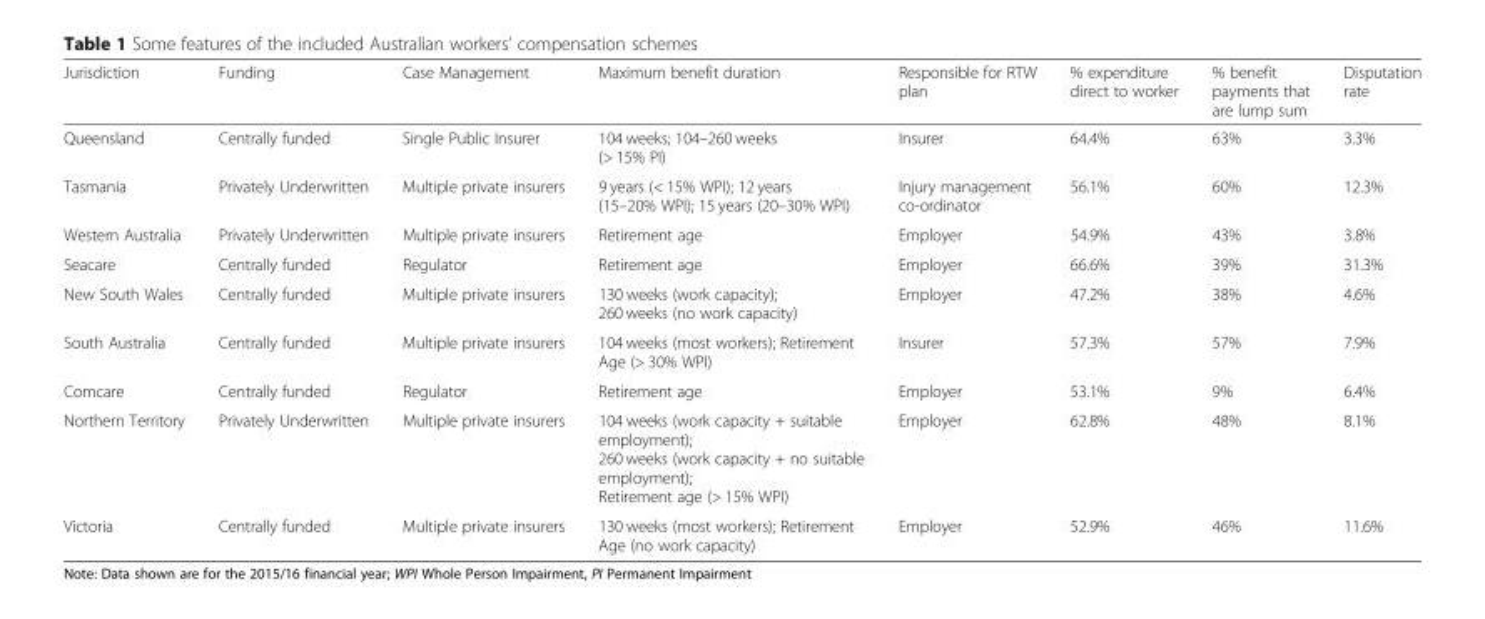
<table><thead><tr><td>Jurisdiction</td><td>Funding</td><td>Case Management</td><td>Maximum benefit duration</td><td>Responsible for RTW plan</td><td>% expenditure direct to worker</td><td>% benefit payments that are lump sum</td><td>Disputation rate</td></tr></thead><tbody><tr><td>Queensland</td><td>Centrally funded</td><td>Single Public Insurer</td><td>104 weeks; 104–260 weeks (&gt; 15% PI)</td><td>Insurer</td><td>64.4%</td><td>63%</td><td>3.3%</td></tr><tr><td>Tasmania</td><td>Privately Underwritten</td><td>Multiple private insurers</td><td>9 years (&lt; 15% WPI); 12 years (15–20% WPI); 15 years (20–30% WPI)</td><td>Injury management co-ordinator</td><td>56.1%</td><td>60%</td><td>12.3%</td></tr><tr><td>Western Australia</td><td>Privately Underwritten</td><td>Multiple private insurers</td><td>Retirement age</td><td>Employer</td><td>54.9%</td><td>43%</td><td>3.8%</td></tr><tr><td>Seacare</td><td>Centrally funded</td><td>Regulator</td><td>Retirement age</td><td>Employer</td><td>66.6%</td><td>39%</td><td>31.3%</td></tr><tr><td>New South Wales</td><td>Centrally funded</td><td>Multiple private insurers</td><td>130 weeks (work capacity); 260 weeks (no work capacity)</td><td>Employer</td><td>47.2%</td><td>38%</td><td>4.6%</td></tr><tr><td>South Australia</td><td>Centrally funded</td><td>Multiple private insurers</td><td>104 weeks (most workers); Retirement Age (&gt; 30% WPI)</td><td>Insurer</td><td>57.3%</td><td>57%</td><td>7.9%</td></tr><tr><td>Comcare</td><td>Centrally funded</td><td>Regulator</td><td>Retirement age</td><td>Employer</td><td>53.1%</td><td>9%</td><td>6.4%</td></tr><tr><td>Northern Territory</td><td>Privately Underwritten</td><td>Multiple private insurers</td><td>104 weeks (work capacity + suitable employment); 260 weeks (work capacity + no suitable employment); Retirement age (&gt; 15% WPI)</td><td>Employer</td><td>62.8%</td><td>48%</td><td>8.1%</td></tr><tr><td>Victoria</td><td>Centrally funded</td><td>Multiple private insurers</td><td>130 weeks (most workers); Retirement Age (no work capacity)</td><td>Employer</td><td>52.9%</td><td>46%</td><td>11.6%</td></tr></tbody></table>